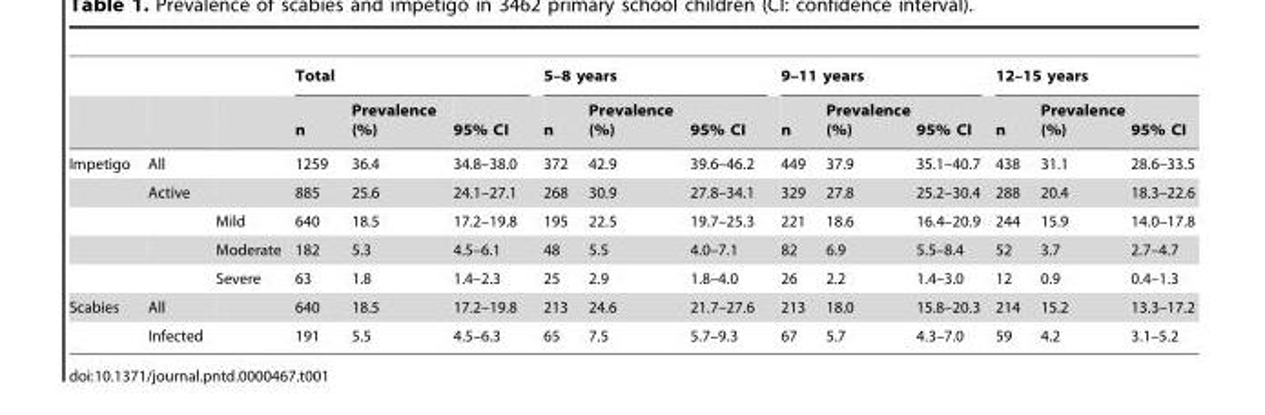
<table><thead><tr><td rowspan="2"></td><td rowspan="2"></td><td rowspan="2"></td><td colspan="3">Total</td><td colspan="3">5–8 years</td><td colspan="3">9–11 years</td><td colspan="3">12–15 years</td></tr><tr><td>n</td><td>Prevalence (%)</td><td>95% CI</td><td>n</td><td>Prevalence (%)</td><td>95% CI</td><td>n</td><td>Prevalence (%)</td><td>95% CI</td><td>n</td><td>Prevalence (%)</td><td>95% CI</td></tr></thead><tbody><tr><td rowspan="5">Impetigo</td><td>All</td><td></td><td>1259</td><td>36.4</td><td>34.8–38.0</td><td>372</td><td>42.9</td><td>39.6–46.2</td><td>449</td><td>37.9</td><td>35.1–40.7</td><td>438</td><td>31.1</td><td>28.6–33.5</td></tr><tr><td>Active</td><td></td><td>885</td><td>25.6</td><td>24.1–27.1</td><td>268</td><td>30.9</td><td>27.8–34.1</td><td>329</td><td>27.8</td><td>25.2–30.4</td><td>288</td><td>20.4</td><td>18.3–22.6</td></tr><tr><td></td><td>Mild</td><td>640</td><td>18.5</td><td>17.2–19.8</td><td>195</td><td>22.5</td><td>19.7–25.3</td><td>221</td><td>18.6</td><td>16.4–20.9</td><td>244</td><td>15.9</td><td>14.0–17.8</td></tr><tr><td></td><td>Moderate</td><td>182</td><td>5.3</td><td>4.5–6.1</td><td>48</td><td>5.5</td><td>4.0–7.1</td><td>82</td><td>6.9</td><td>5.5–8.4</td><td>52</td><td>3.7</td><td>2.7–4.7</td></tr><tr><td></td><td>Severe</td><td>63</td><td>1.8</td><td>1.4–2.3</td><td>25</td><td>2.9</td><td>1.8–4.0</td><td>26</td><td>2.2</td><td>1.4–3.0</td><td>12</td><td>0.9</td><td>0.4–1.3</td></tr><tr><td rowspan="2">Scabies</td><td>All</td><td></td><td>640</td><td>18.5</td><td>17.2–19.8</td><td>213</td><td>24.6</td><td>21.7–27.6</td><td>213</td><td>18.0</td><td>15.8–20.3</td><td>214</td><td>15.2</td><td>13.3–17.2</td></tr><tr><td>Infected</td><td></td><td>191</td><td>5.5</td><td>4.5–6.3</td><td>65</td><td>7.5</td><td>5.7–9.3</td><td>67</td><td>5.7</td><td>4.3–7.0</td><td>59</td><td>4.2</td><td>3.1–5.2</td></tr></tbody></table>